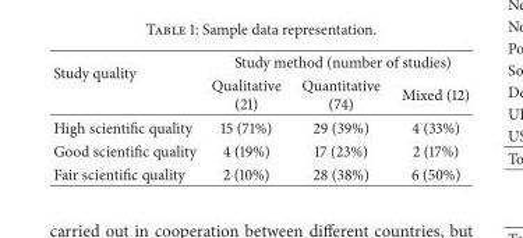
<table><thead><tr><td rowspan="2">Study quality</td><td colspan="3">Study method (number of studies)</td></tr><tr><td>Qualitative (21)</td><td>Quantitative (74)</td><td>Mixed (12)</td></tr></thead><tbody><tr><td>High scientific quality</td><td>15 (71%)</td><td>29 (39%)</td><td>4 (33%)</td></tr><tr><td>Good scientific quality</td><td>4 (19%)</td><td>17 (23%)</td><td>2 (17%)</td></tr><tr><td>Fair scientific quality</td><td>2 (10%)</td><td>28 (38%)</td><td>6 (50%)</td></tr></tbody></table>